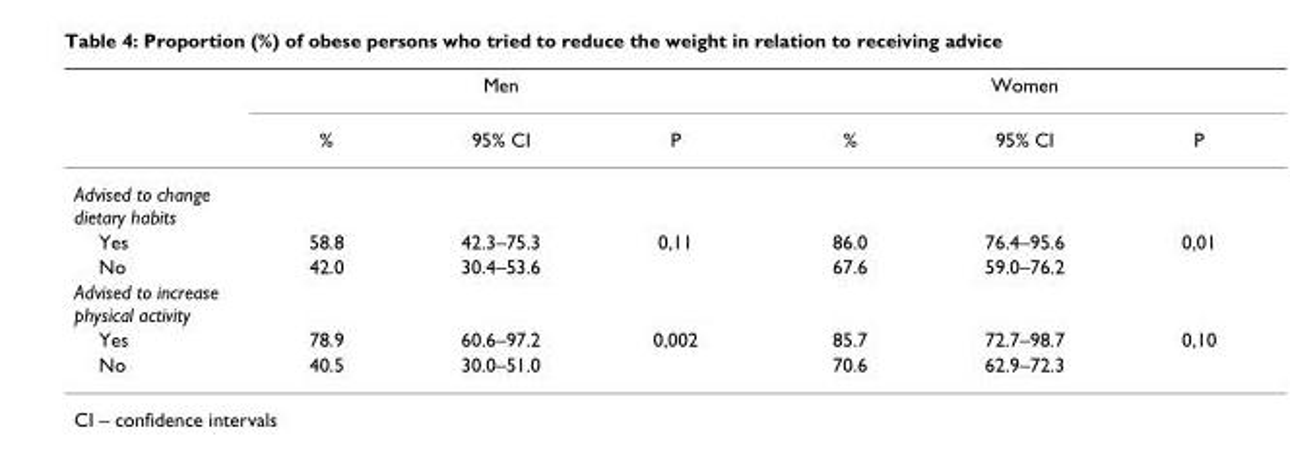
<table><thead><tr><td rowspan="2"></td><td colspan="3">Men</td><td colspan="3">Women</td></tr><tr><td>%</td><td>95% CI</td><td>P</td><td>%</td><td>95% CI</td><td>P</td></tr></thead><tbody><tr><td colspan="7">Advised to change dietary habits</td></tr><tr><td>Yes</td><td>58.8</td><td>42.3–75.3</td><td>0,11</td><td>86.0</td><td>76.4–95.6</td><td>0,01</td></tr><tr><td>No</td><td>42.0</td><td>30.4–53.6</td><td></td><td>67.6</td><td>59.0–76.2</td><td></td></tr><tr><td colspan="7">Advised to increase physical activity</td></tr><tr><td>Yes</td><td>78.9</td><td>60.6–97.2</td><td>0,002</td><td>85.7</td><td>72.7–98.7</td><td>0,10</td></tr><tr><td>No</td><td>40.5</td><td>30.0–51.0</td><td></td><td>70.6</td><td>62.9–72.3</td><td></td></tr></tbody></table>